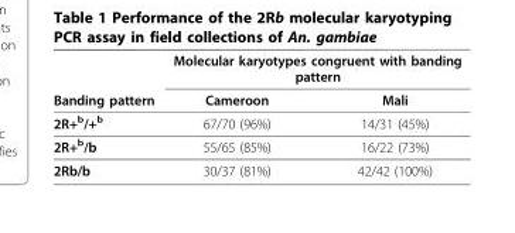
<table><thead><tr><td rowspan="2">Banding pattern</td><td colspan="2">Molecular karyotypes congruent with banding pattern</td></tr><tr><td>Cameroon</td><td>Mali</td></tr></thead><tbody><tr><td>2R+<sup>b</sup>/+<sup>b</sup></td><td>67/70 (96%)</td><td>14/31 (45%)</td></tr><tr><td>2R+<sup>b</sup>/b</td><td>55/65 (85%)</td><td>16/22 (73%)</td></tr><tr><td>2Rb/b</td><td>30/37 (81%)</td><td>42/42 (100%)</td></tr></tbody></table>